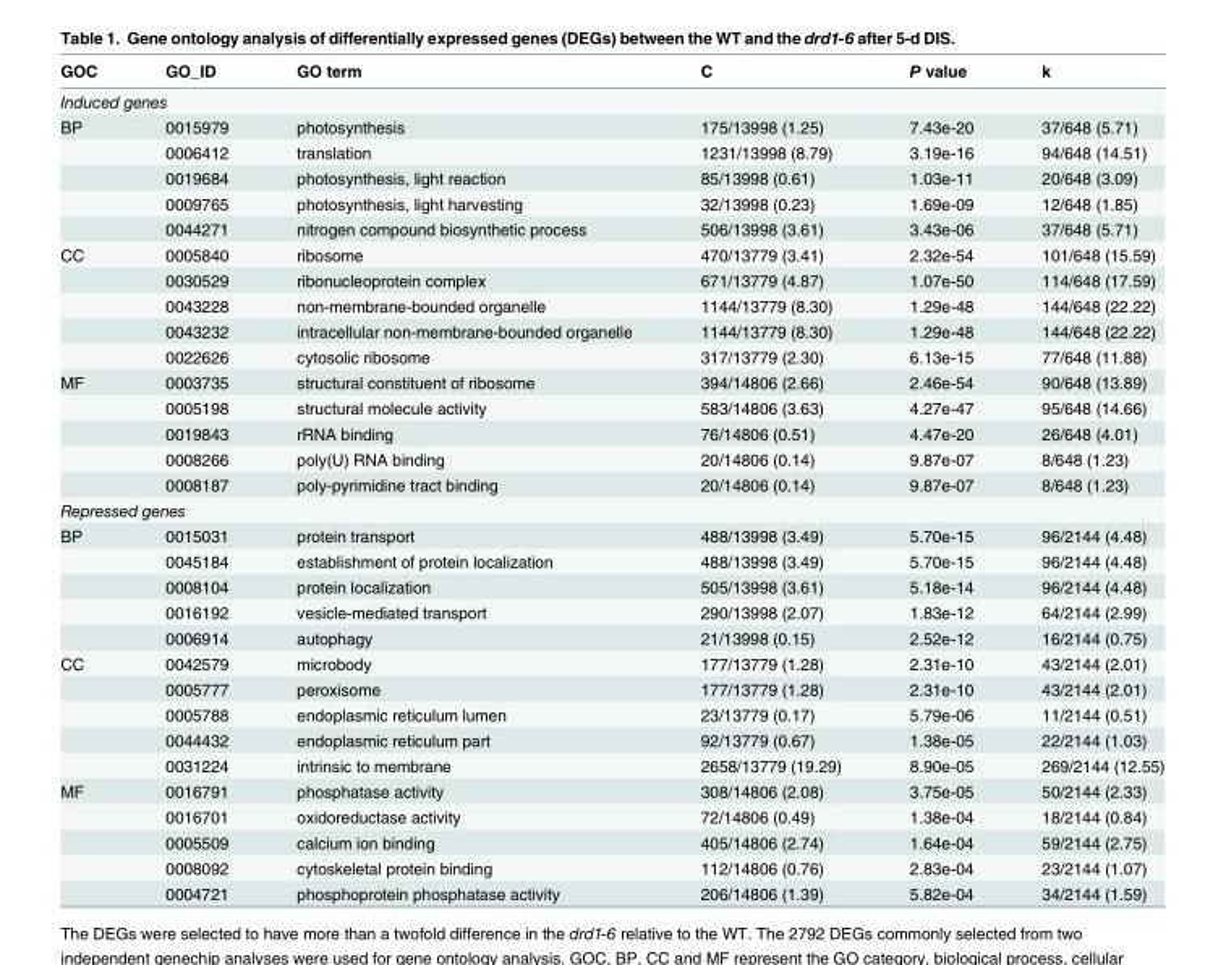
<table><thead><tr><td>GOC</td><td>GO_ID</td><td>GO term</td><td>C</td><td>P value</td><td>k</td></tr></thead><tbody><tr><td colspan="6">Induced genes</td></tr><tr><td rowspan="5">BP</td><td>0015979</td><td>photosynthesis</td><td>175/13998 (1.25)</td><td>7.43e-20</td><td>37/648 (5.71)</td></tr><tr><td>0006412</td><td>translation</td><td>1231/13998 (8.79)</td><td>3.19e-16</td><td>94/648 (14.51)</td></tr><tr><td>0019684</td><td>photosynthesis, light reaction</td><td>85/13998 (0.61)</td><td>1.03e-11</td><td>20/648 (3.09)</td></tr><tr><td>0009765</td><td>photosynthesis, light harvesting</td><td>32/13998 (0.23)</td><td>1.69e-09</td><td>12/648 (1.85)</td></tr><tr><td>0044271</td><td>nitrogen compound biosynthetic process</td><td>506/13998 (3.61)</td><td>3.43e-06</td><td>37/648 (5.71)</td></tr><tr><td rowspan="5">CC</td><td>0005840</td><td>ribosome</td><td>470/13779 (3.41)</td><td>2.32e-54</td><td>101/648 (15.59)</td></tr><tr><td>0030529</td><td>ribonucleoprotein complex</td><td>671/13779 (4.87)</td><td>1.07e-50</td><td>114/648 (17.59)</td></tr><tr><td>0043228</td><td>non-membrane-bounded organelle</td><td>1144/13779 (8.30)</td><td>1.29e-48</td><td>144/648 (22.22)</td></tr><tr><td>0043232</td><td>intracellular non-membrane-bounded organelle</td><td>1144/13779 (8.30)</td><td>1.29e-48</td><td>144/648 (22.22)</td></tr><tr><td>0022626</td><td>cytosolic ribosome</td><td>317/13779 (2.30)</td><td>6.13e-15</td><td>77/648 (11.88)</td></tr><tr><td rowspan="5">MF</td><td>0003735</td><td>structural constituent of ribosome</td><td>394/14806 (2.66)</td><td>2.46e-54</td><td>90/648 (13.89)</td></tr><tr><td>0005198</td><td>structural molecule activity</td><td>583/14806 (3.63)</td><td>4.27e-47</td><td>95/648 (14.66)</td></tr><tr><td>0019843</td><td>rRNA binding</td><td>76/14806 (0.51)</td><td>4.47e-20</td><td>26/648 (4.01)</td></tr><tr><td>0008266</td><td>poly(U) RNA binding</td><td>20/14806 (0.14)</td><td>9.87e-07</td><td>8/648 (1.23)</td></tr><tr><td>0008187</td><td>poly-pyrimidine tract binding</td><td>20/14806 (0.14)</td><td>9.87e-07</td><td>8/648 (1.23)</td></tr><tr><td colspan="6">Repressed genes</td></tr><tr><td rowspan="5">BP</td><td>0015031</td><td>protein transport</td><td>488/13998 (3.49)</td><td>5.70e-15</td><td>96/2144 (4.48)</td></tr><tr><td>0045184</td><td>establishment of protein localization</td><td>488/13998 (3.49)</td><td>5.70e-15</td><td>96/2144 (4.48)</td></tr><tr><td>0008104</td><td>protein localization</td><td>505/13998 (3.61)</td><td>5.18e-14</td><td>96/2144 (4.48)</td></tr><tr><td>0016192</td><td>vesicle-mediated transport</td><td>290/13998 (2.07)</td><td>1.83e-12</td><td>64/2144 (2.99)</td></tr><tr><td>0006914</td><td>autophagy</td><td>21/13998 (0.15)</td><td>2.52e-12</td><td>16/2144 (0.75)</td></tr><tr><td rowspan="5">CC</td><td>0042579</td><td>microbody</td><td>177/13779 (1.28)</td><td>2.31e-10</td><td>43/2144 (2.01)</td></tr><tr><td>0005777</td><td>peroxisome</td><td>177/13779 (1.28)</td><td>2.31e-10</td><td>43/2144 (2.01)</td></tr><tr><td>0005788</td><td>endoplasmic reticulum lumen</td><td>23/13779 (0.17)</td><td>5.79e-06</td><td>11/2144 (0.51)</td></tr><tr><td>0044432</td><td>endoplasmic reticulum part</td><td>92/13779 (0.67)</td><td>1.38e-05</td><td>22/2144 (1.03)</td></tr><tr><td>0031224</td><td>intrinsic to membrane</td><td>2658/13779 (19.29)</td><td>8.90e-05</td><td>269/2144 (12.55)</td></tr><tr><td rowspan="5">MF</td><td>0016791</td><td>phosphatase activity</td><td>308/14806 (2.08)</td><td>3.75e-05</td><td>50/2144 (2.33)</td></tr><tr><td>0016701</td><td>oxidoreductase activity</td><td>72/14806 (0.49)</td><td>1.38e-04</td><td>18/2144 (0.84)</td></tr><tr><td>0005509</td><td>calcium ion binding</td><td>405/14806 (2.74)</td><td>1.64e-04</td><td>59/2144 (2.75)</td></tr><tr><td>0008092</td><td>cytoskeletal protein binding</td><td>112/14806 (0.76)</td><td>2.83e-04</td><td>23/2144 (1.07)</td></tr><tr><td>0004721</td><td>phosphoprotein phosphatase activity</td><td>206/14806 (1.39)</td><td>5.82e-04</td><td>34/2144 (1.59)</td></tr></tbody></table>